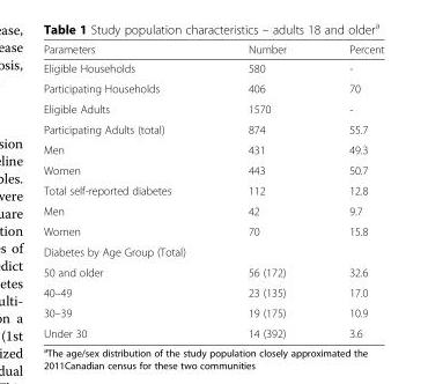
<table><thead><tr><td>Parameters</td><td>Number</td><td>Percent</td></tr></thead><tbody><tr><td>Eligible Households</td><td>580</td><td>-</td></tr><tr><td>Participating Households</td><td>406</td><td>70</td></tr><tr><td>Eligible Adults</td><td>1570</td><td>-</td></tr><tr><td>Participating Adults (total)</td><td>874</td><td>55.7</td></tr><tr><td>Men</td><td>431</td><td>49.3</td></tr><tr><td>Women</td><td>443</td><td>50.7</td></tr><tr><td>Total self-reported diabetes</td><td>112</td><td>12.8</td></tr><tr><td>Men</td><td>42</td><td>9.7</td></tr><tr><td>Women</td><td>70</td><td>15.8</td></tr><tr><td colspan="3">Diabetes by Age Group (Total)</td></tr><tr><td>50 and older</td><td>56 (172)</td><td>32.6</td></tr><tr><td>40–49</td><td>23 (135)</td><td>17.0</td></tr><tr><td>30–39</td><td>19 (175)</td><td>10.9</td></tr><tr><td>Under 30</td><td>14 (392)</td><td>3.6</td></tr></tbody></table>